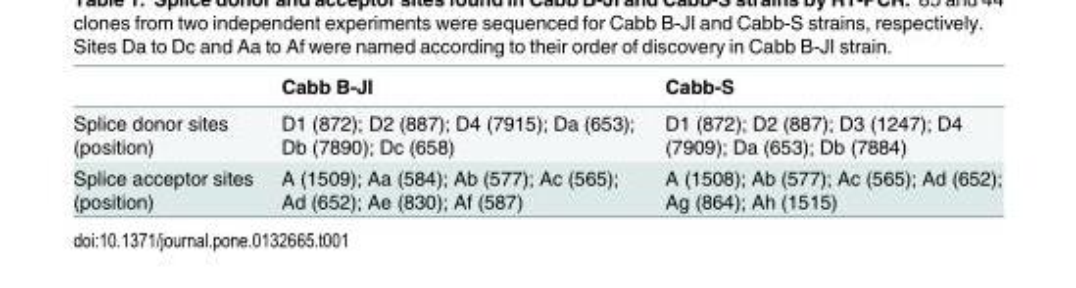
<table><thead><tr><td></td><td>Cabb B-JI</td><td>Cabb-S</td></tr></thead><tbody><tr><td>Splice donor sites (position)</td><td>D1 (872); D2 (887); D4 (7915); Da (653); Db (7890); Dc (658)</td><td>D1 (872); D2 (887); D3 (1247); D4 (7909); Da (653); Db (7884)</td></tr><tr><td>Splice acceptor sites (position)</td><td>A (1509); Aa (584); Ab (577); Ac (565); Ad (652); Ae (830); Af (587)</td><td>A (1508); Ab (577); Ac (565); Ad (652); Ag (864); Ah (1515)</td></tr></tbody></table>